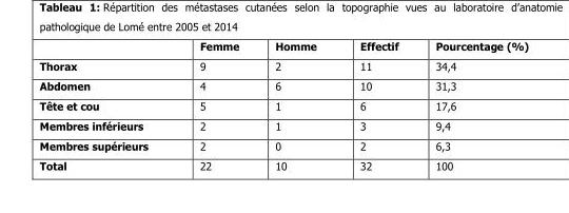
<table><thead><tr><td></td><td>Femme</td><td>Homme</td><td>Effectif</td><td>Pourcentage (%)</td></tr></thead><tbody><tr><td>Thorax</td><td>9</td><td>2</td><td>11</td><td>34,4</td></tr><tr><td>Abdomen</td><td>4</td><td>6</td><td>10</td><td>31,3</td></tr><tr><td>Tête et cou</td><td>5</td><td>1</td><td>6</td><td>17,6</td></tr><tr><td>Membres inférieurs</td><td>2</td><td>1</td><td>3</td><td>9,4</td></tr><tr><td>Membres supérieurs</td><td>2</td><td>0</td><td>2</td><td>6,3</td></tr><tr><td>Total</td><td>22</td><td>10</td><td>32</td><td>100</td></tr></tbody></table>